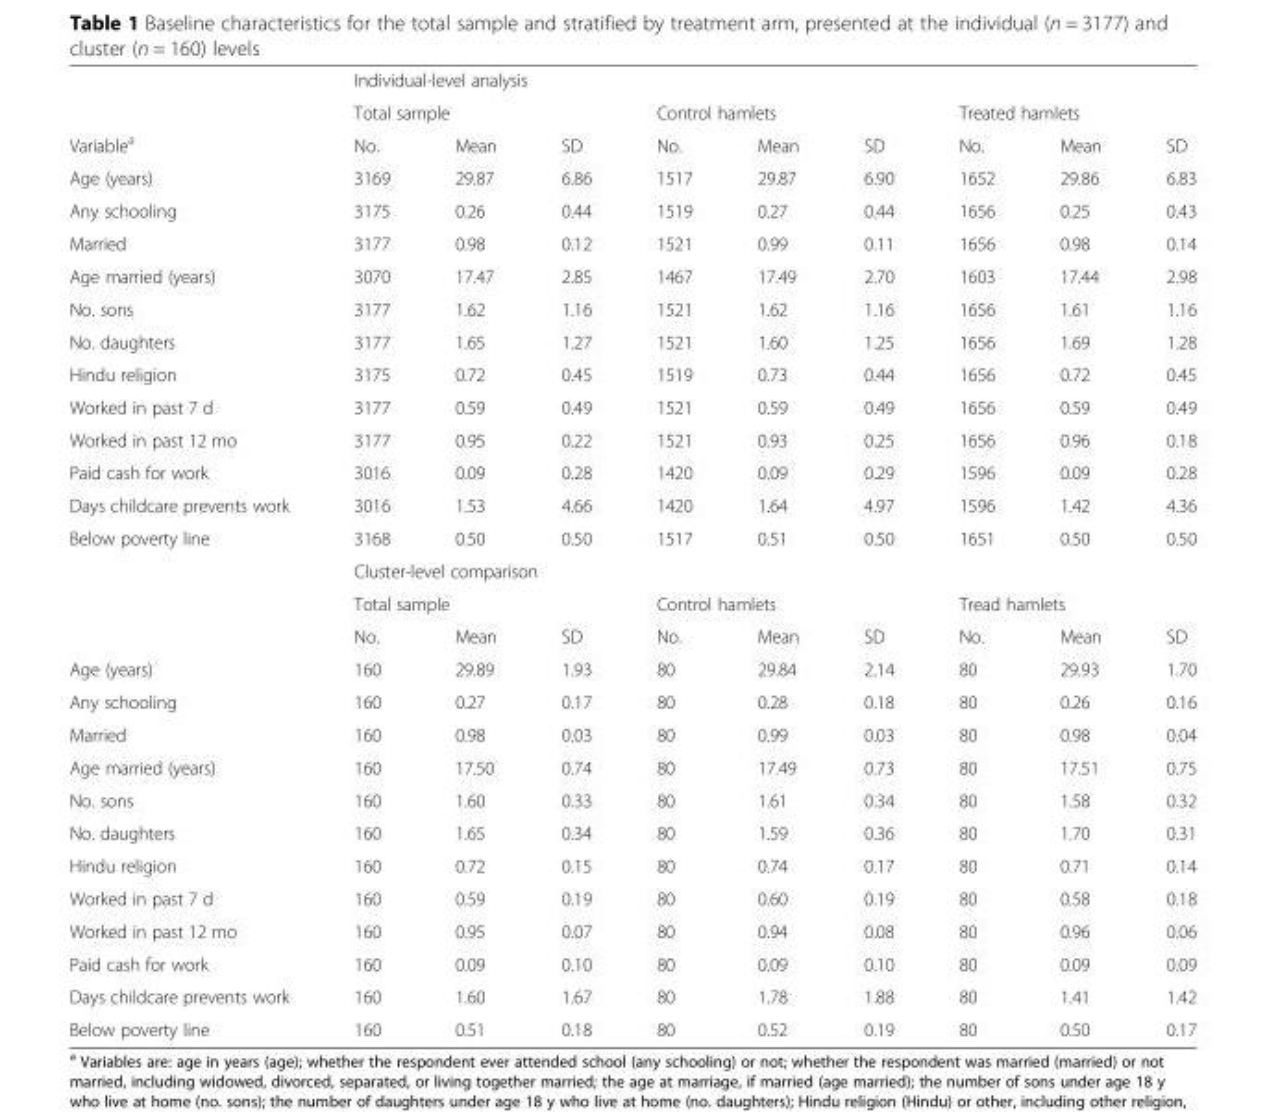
<table><thead><tr><td rowspan="3">Variable<sup>a</sup></td><td colspan="9">Individual-level analysis</td></tr><tr><td colspan="3">Total sample</td><td colspan="3">Control hamlets</td><td colspan="3">Treated hamlets</td></tr><tr><td>No.</td><td>Mean</td><td>SD</td><td>No.</td><td>Mean</td><td>SD</td><td>No.</td><td>Mean</td><td>SD</td></tr></thead><tbody><tr><td>Age (years)</td><td>3169</td><td>29.87</td><td>6.86</td><td>1517</td><td>29.87</td><td>6.90</td><td>1652</td><td>29.86</td><td>6.83</td></tr><tr><td>Any schooling</td><td>3175</td><td>0.26</td><td>0.44</td><td>1519</td><td>0.27</td><td>0.44</td><td>1656</td><td>0.25</td><td>0.43</td></tr><tr><td>Married</td><td>3177</td><td>0.98</td><td>0.12</td><td>1521</td><td>0.99</td><td>0.11</td><td>1656</td><td>0.98</td><td>0.14</td></tr><tr><td>Age married (years)</td><td>3070</td><td>17.47</td><td>2.85</td><td>1467</td><td>17.49</td><td>2.70</td><td>1603</td><td>17.44</td><td>2.98</td></tr><tr><td>No. sons</td><td>3177</td><td>1.62</td><td>1.16</td><td>1521</td><td>1.62</td><td>1.16</td><td>1656</td><td>1.61</td><td>1.16</td></tr><tr><td>No. daughters</td><td>3177</td><td>1.65</td><td>1.27</td><td>1521</td><td>1.60</td><td>1.25</td><td>1656</td><td>1.69</td><td>1.28</td></tr><tr><td>Hindu religion</td><td>3175</td><td>0.72</td><td>0.45</td><td>1519</td><td>0.73</td><td>0.44</td><td>1656</td><td>0.72</td><td>0.45</td></tr><tr><td>Worked in past 7 d</td><td>3177</td><td>0.59</td><td>0.49</td><td>1521</td><td>0.59</td><td>0.49</td><td>1656</td><td>0.59</td><td>0.49</td></tr><tr><td>Worked in past 12 mo</td><td>3177</td><td>0.95</td><td>0.22</td><td>1521</td><td>0.93</td><td>0.25</td><td>1656</td><td>0.96</td><td>0.18</td></tr><tr><td>Paid cash for work</td><td>3016</td><td>0.09</td><td>0.28</td><td>1420</td><td>0.09</td><td>0.29</td><td>1596</td><td>0.09</td><td>0.28</td></tr><tr><td>Days childcare prevents work</td><td>3016</td><td>1.53</td><td>4.66</td><td>1420</td><td>1.64</td><td>4.97</td><td>1596</td><td>1.42</td><td>4.36</td></tr><tr><td rowspan="4">Below poverty line</td><td>3168</td><td>0.50</td><td>0.50</td><td>1517</td><td>0.51</td><td>0.50</td><td>1651</td><td>0.50</td><td>0.50</td></tr><tr><td colspan="9">Cluster-level comparison</td></tr><tr><td colspan="3">Total sample</td><td colspan="3">Control hamlets</td><td colspan="3">Tread hamlets</td></tr><tr><td>No.</td><td>Mean</td><td>SD</td><td>No.</td><td>Mean</td><td>SD</td><td>No.</td><td>Mean</td><td>SD</td></tr><tr><td>Age (years)</td><td>160</td><td>29.89</td><td>1.93</td><td>80</td><td>29.84</td><td>2.14</td><td>80</td><td>29.93</td><td>1.70</td></tr><tr><td>Any schooling</td><td>160</td><td>0.27</td><td>0.17</td><td>80</td><td>0.28</td><td>0.18</td><td>80</td><td>0.26</td><td>0.16</td></tr><tr><td>Married</td><td>160</td><td>0.98</td><td>0.03</td><td>80</td><td>0.99</td><td>0.03</td><td>80</td><td>0.98</td><td>0.04</td></tr><tr><td>Age married (years)</td><td>160</td><td>17.50</td><td>0.74</td><td>80</td><td>17.49</td><td>0.73</td><td>80</td><td>17.51</td><td>0.75</td></tr><tr><td>No. sons</td><td>160</td><td>1.60</td><td>0.33</td><td>80</td><td>1.61</td><td>0.34</td><td>80</td><td>1.58</td><td>0.32</td></tr><tr><td>No. daughters</td><td>160</td><td>1.65</td><td>0.34</td><td>80</td><td>1.59</td><td>0.36</td><td>80</td><td>1.70</td><td>0.31</td></tr><tr><td>Hindu religion</td><td>160</td><td>0.72</td><td>0.15</td><td>80</td><td>0.74</td><td>0.17</td><td>80</td><td>0.71</td><td>0.14</td></tr><tr><td>Worked in past 7 d</td><td>160</td><td>0.59</td><td>0.19</td><td>80</td><td>0.60</td><td>0.19</td><td>80</td><td>0.58</td><td>0.18</td></tr><tr><td>Worked in past 12 mo</td><td>160</td><td>0.95</td><td>0.07</td><td>80</td><td>0.94</td><td>0.08</td><td>80</td><td>0.96</td><td>0.06</td></tr><tr><td>Paid cash for work</td><td>160</td><td>0.09</td><td>0.10</td><td>80</td><td>0.09</td><td>0.10</td><td>80</td><td>0.09</td><td>0.09</td></tr><tr><td>Days childcare prevents work</td><td>160</td><td>1.60</td><td>1.67</td><td>80</td><td>1.78</td><td>1.88</td><td>80</td><td>1.41</td><td>1.42</td></tr><tr><td>Below poverty line</td><td>160</td><td>0.51</td><td>0.18</td><td>80</td><td>0.52</td><td>0.19</td><td>80</td><td>0.50</td><td>0.17</td></tr></tbody></table>